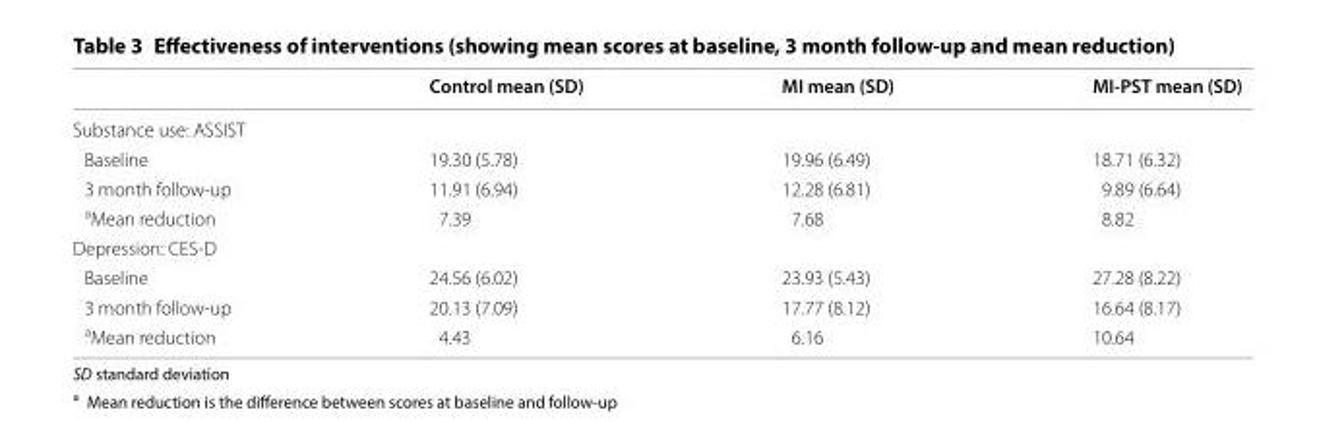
<table><thead><tr><td></td><td>Control mean (SD)</td><td>MI mean (SD)</td><td>MI‑PST mean (SD)</td></tr></thead><tbody><tr><td colspan="4">Substance use: ASSIST</td></tr><tr><td>Baseline</td><td>19.30 (5.78)</td><td>19.96 (6.49)</td><td>18.71 (6.32)</td></tr><tr><td>3 month follow-up</td><td>11.91 (6.94)</td><td>12.28 (6.81)</td><td>9.89 (6.64)</td></tr><tr><td><sup>a</sup>Mean reduction</td><td>7.39</td><td>7.68</td><td>8.82</td></tr><tr><td colspan="4">Depression: CES-D</td></tr><tr><td>Baseline</td><td>24.56 (6.02)</td><td>23.93 (5.43)</td><td>27.28 (8.22)</td></tr><tr><td>3 month follow-up</td><td>20.13 (7.09)</td><td>17.77 (8.12)</td><td>16.64 (8.17)</td></tr><tr><td><sup>a</sup>Mean reduction</td><td>4.43</td><td>6.16</td><td>10.64</td></tr></tbody></table>